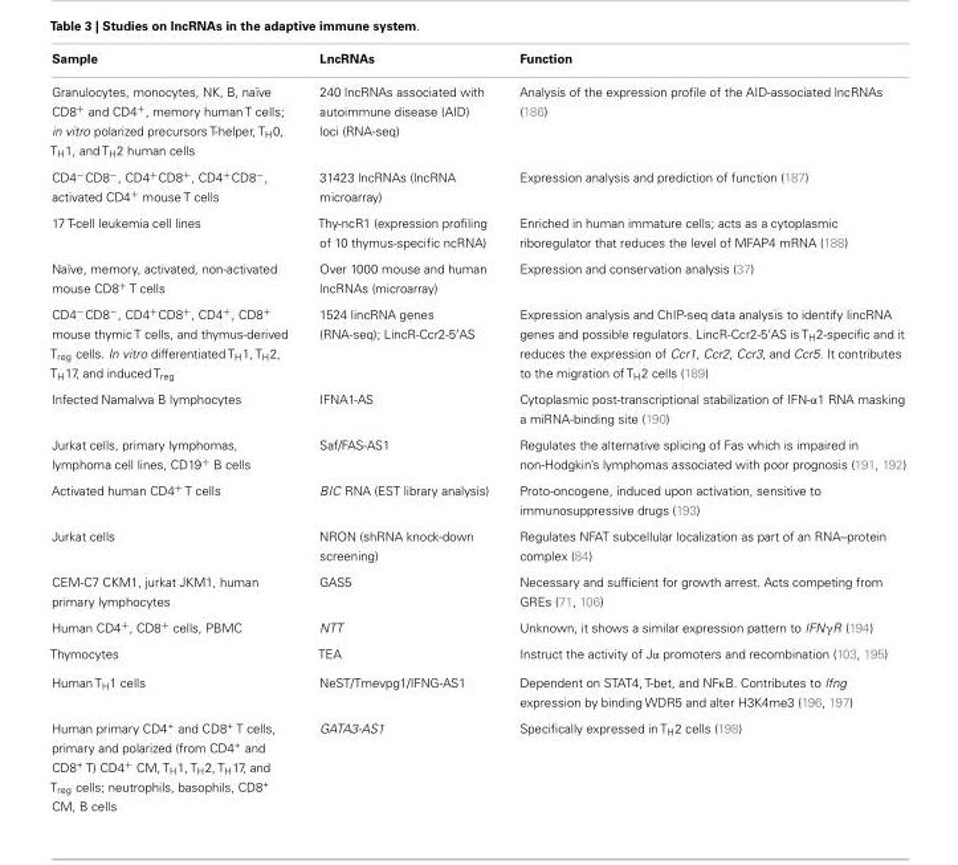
<table><thead><tr><td>Sample</td><td>LncRNAs</td><td>Function</td></tr></thead><tbody><tr><td>Granulocytes, monocytes, NK, B, naïve CD8<sup>+</sup> and CD4<sup>+</sup>, memory human T cells; in vitro polarized precursors T-helper, T<sub>H</sub>0, T<sub>H</sub>1, and T<sub>H</sub>2 human cells</td><td>240 lncRNAs associated with autoimmune disease (AID) loci (RNA-seq)</td><td>Analysis of the expression profile of the AID-associated lncRNAs (186)</td></tr><tr><td>CD4<sup>−</sup>CD8<sup>−</sup>, CD4<sup>+</sup>CD8<sup>+</sup>, CD4<sup>+</sup>CD8<sup>−</sup>, activated CD4<sup>+</sup> mouse T cells</td><td>31423 lncRNAs (lncRNA microarray)</td><td>Expression analysis and prediction of function (187)</td></tr><tr><td>17 T-cell leukemia cell lines</td><td>Thy-ncR1 (expression profiling of 10 thymus-specific ncRNA)</td><td>Enriched in human immature cells; acts as a cytoplasmic riboregulator that reduces the level of MFAP4 mRNA (188)</td></tr><tr><td>Naïve, memory, activated, non-activated mouse CD8<sup>+</sup> T cells</td><td>Over 1000 mouse and human lncRNAs (microarray)</td><td>Expression and conservation analysis (37)</td></tr><tr><td>CD4<sup>−</sup>CD8<sup>−</sup>, CD4<sup>+</sup>CD8<sup>+</sup>, CD4<sup>+</sup>, CD8<sup>+</sup> mouse thymic T cells, and thymus-derived T<sub>reg</sub> cells. In vitro differentiated T<sub>H</sub>1, T<sub>H</sub>2, T<sub>H</sub>17, and induced T<sub>reg</sub></td><td>1524 lincRNA genes (RNA-seq); LincR-Ccr2-5′AS</td><td>Expression analysis and ChIP-seq data analysis to identify lincRNA genes and possible regulators. LincR-Ccr2-5′AS is T<sub>H</sub>2-specific and it reduces the expression of Ccr1, Ccr2, Ccr3, and Ccr5. It contributes to the migration of T<sub>H</sub>2 cells (189)</td></tr><tr><td>Infected Namalwa B lymphocytes</td><td>IFNA1-AS</td><td>Cytoplasmic post-transcriptional stabilization of IFN-α1 RNA masking a miRNA-binding site (190)</td></tr><tr><td>Jurkat cells, primary lymphomas, lymphoma cell lines, CD19<sup>+</sup> B cells</td><td>Saf/FAS-AS1</td><td>Regulates the alternative splicing of Fas which is impaired in non-Hodgkin’s lymphomas associated with poor prognosis (191, 192)</td></tr><tr><td>Activated human CD4<sup>+</sup> T cells</td><td>BIC RNA (EST library analysis)</td><td>Proto-oncogene, induced upon activation, sensitive to immunosuppressive drugs (193)</td></tr><tr><td>Jurkat cells</td><td>NRON (shRNA knock-down screening)</td><td>Regulates NFAT subcellular localization as part of an RNA–protein complex (84)</td></tr><tr><td>CEM-C7 CKM1, jurkat JKM1, human primary lymphocytes</td><td>GAS5</td><td>Necessary and sufficient for growth arrest. Acts competing from GREs (71, 106)</td></tr><tr><td>Human CD4<sup>+</sup>, CD8<sup>+</sup> cells, PBMC</td><td>NTT</td><td>Unknown, it shows a similar expression pattern to IFNγR (194)</td></tr><tr><td>Thymocytes</td><td>TEA</td><td>Instruct the activity of Jα promoters and recombination (103, 195)</td></tr><tr><td>Human T<sub>H</sub>1 cells</td><td>NeST/Tmevpg1/IFNG-AS1</td><td>Dependent on STAT4, T-bet, and NFκB. Contributes to Ifng expression by binding WDR5 and alter H3K4me3 (196, 197)</td></tr><tr><td>Human primary CD4<sup>+</sup> and CD8<sup>+</sup> T cells, primary and polarized (from CD4<sup>+</sup> and CD8<sup>+</sup> T) CD4<sup>+</sup> CM, T<sub>H</sub>1, T<sub>H</sub>2, T<sub>H</sub>17, and T<sub>reg</sub> cells; neutrophils, basophils, CD8<sup>+</sup> CM, B cells</td><td>GATA3-AS1</td><td>Specifically expressed in T<sub>H</sub>2 cells (198)</td></tr></tbody></table>